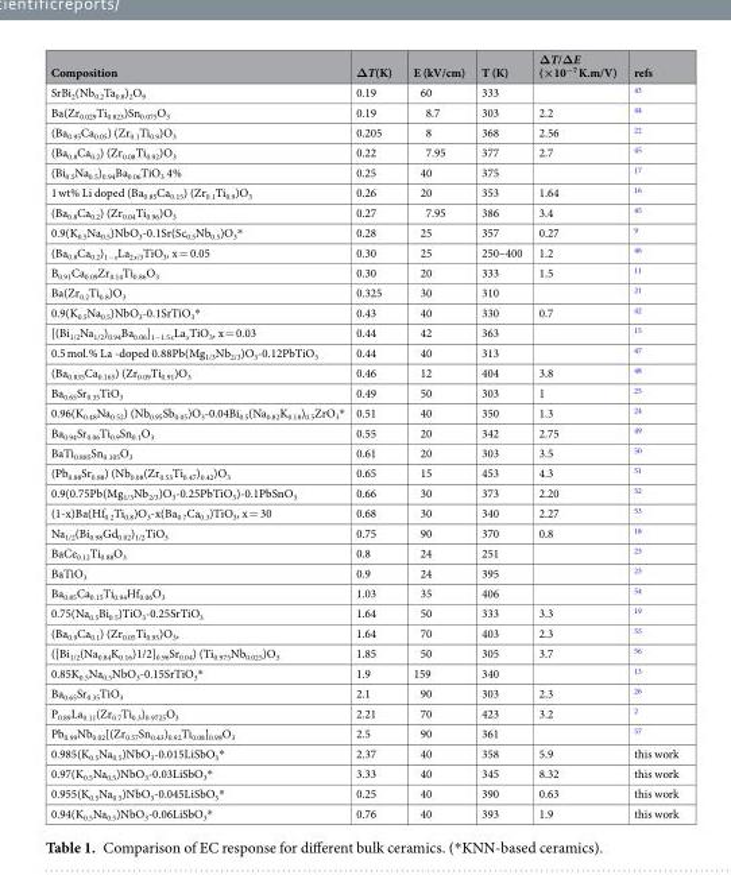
<table><thead><tr><td>Composition</td><td>ΔT(K)</td><td>E (kV/cm)</td><td>T (K)</td><td>ΔT/ΔE (×10<sup>−7</sup> K.m/V)</td><td>refs</td></tr></thead><tbody><tr><td>SrBi<sub>2</sub>(Nb<sub>0.2</sub>Ta<sub>0.8</sub>)<sub>2</sub>O<sub>9</sub></td><td>0.19</td><td>60</td><td>333</td><td></td><td><sup>43</sup></td></tr><tr><td>Ba(Zr<sub>0.029</sub>Ti<sub>0.823</sub>)Sn<sub>0.075</sub>O<sub>3</sub></td><td>0.19</td><td>8.7</td><td>303</td><td>2.2</td><td><sup>44</sup></td></tr><tr><td>(Ba<sub>0.95</sub>Ca<sub>0.05</sub>) (Zr<sub>0.1</sub>Ti<sub>0.9</sub>)O<sub>3</sub></td><td>0.205</td><td>8</td><td>368</td><td>2.56</td><td><sup>22</sup></td></tr><tr><td>(Ba<sub>0.8</sub>Ca<sub>0.2</sub>) (Zr<sub>0.08</sub>Ti<sub>0.92</sub>)O<sub>3</sub></td><td>0.22</td><td>7.95</td><td>377</td><td>2.7</td><td><sup>45</sup></td></tr><tr><td>(Bi<sub>0.5</sub>Na<sub>0.5</sub>)<sub>0.94</sub>Ba<sub>0.06</sub>TiO<sub>3</sub> 4%</td><td>0.25</td><td>40</td><td>375</td><td></td><td><sup>17</sup></td></tr><tr><td>1 wt% Li doped (Ba<sub>0.85</sub>Ca<sub>0.15</sub>) (Zr<sub>0.1</sub>Ti<sub>0.9</sub>)O<sub>3</sub></td><td>0.26</td><td>20</td><td>353</td><td>1.64</td><td><sup>16</sup></td></tr><tr><td>(Ba<sub>0.8</sub>Ca<sub>0.2</sub>) (Zr<sub>0.04</sub>Ti<sub>0.96</sub>)O<sub>3</sub></td><td>0.27</td><td>7.95</td><td>386</td><td>3.4</td><td><sup>45</sup></td></tr><tr><td>0.9(K<sub>0.5</sub>Na<sub>0.5</sub>)NbO<sub>3</sub>-0.1Sr(Sc<sub>0.5</sub>Nb<sub>0.5</sub>)O<sub>3</sub>*</td><td>0.28</td><td>25</td><td>357</td><td>0.27</td><td><sup>9</sup></td></tr><tr><td>(Ba<sub>0.8</sub>Ca<sub>0.2</sub>)<sub>1−x</sub>La<sub>2x/3</sub>TiO<sub>3</sub>, x = 0.05</td><td>0.30</td><td>25</td><td>250–400</td><td>1.2</td><td><sup>46</sup></td></tr><tr><td>B<sub>0.91</sub>Ca<sub>0.09</sub>Zr<sub>0.14</sub>Ti<sub>0.86</sub>O<sub>3</sub></td><td>0.30</td><td>20</td><td>333</td><td>1.5</td><td><sup>11</sup></td></tr><tr><td>Ba(Zr<sub>0.2</sub>Ti<sub>0.8</sub>)O<sub>3</sub></td><td>0.325</td><td>30</td><td>310</td><td></td><td><sup>21</sup></td></tr><tr><td>0.9(K<sub>0.5</sub>Na<sub>0.5</sub>)NbO<sub>3</sub>-0.1SrTiO<sub>3</sub>*</td><td>0.43</td><td>40</td><td>330</td><td>0.7</td><td><sup>42</sup></td></tr><tr><td>[(Bi<sub>1/2</sub>Na<sub>1/2</sub>)<sub>0.94</sub>Ba<sub>0.06</sub>]<sub>1−1.5x</sub>La<sub>x</sub>TiO<sub>3</sub>, x = 0.03</td><td>0.44</td><td>42</td><td>363</td><td></td><td><sup>15</sup></td></tr><tr><td>0.5 mol.% La -doped 0.88Pb(Mg<sub>1/3</sub>Nb<sub>2/3</sub>)O<sub>3</sub>-0.12PbTiO<sub>3</sub></td><td>0.44</td><td>40</td><td>313</td><td></td><td><sup>47</sup></td></tr><tr><td>(Ba<sub>0.835</sub>Ca<sub>0.165</sub>) (Zr<sub>0.09</sub>Ti<sub>0.91</sub>)O<sub>3</sub></td><td>0.46</td><td>12</td><td>404</td><td>3.8</td><td><sup>48</sup></td></tr><tr><td>Ba<sub>0.65</sub>Sr<sub>0.35</sub>TiO<sub>3</sub></td><td>0.49</td><td>50</td><td>303</td><td>1</td><td><sup>25</sup></td></tr><tr><td>0.96(K<sub>0.48</sub>Na<sub>0.52</sub>) (Nb<sub>0.95</sub>Sb<sub>0.05</sub>)O<sub>3</sub>-0.04Bi<sub>0.5</sub>(Na<sub>0.82</sub>K<sub>0.18</sub>)<sub>0.5</sub>ZrO<sub>3</sub>*</td><td>0.51</td><td>40</td><td>350</td><td>1.3</td><td><sup>24</sup></td></tr><tr><td>Ba<sub>0.94</sub>Sr<sub>0.06</sub>Ti<sub>0.9</sub>Sn<sub>0.1</sub>O<sub>3</sub></td><td>0.55</td><td>20</td><td>342</td><td>2.75</td><td><sup>49</sup></td></tr><tr><td>BaTi<sub>0.885</sub>Sn<sub>0.105</sub>O<sub>3</sub></td><td>0.61</td><td>20</td><td>303</td><td>3.5</td><td><sup>50</sup></td></tr><tr><td>(Pb<sub>0.88</sub>Sr<sub>0.88</sub>) (Nb<sub>0.08</sub>(Zr<sub>0.53</sub>Ti<sub>0.47</sub>)<sub>0.42</sub>)O<sub>3</sub></td><td>0.65</td><td>15</td><td>453</td><td>4.3</td><td><sup>51</sup></td></tr><tr><td>0.9(0.75Pb(Mg<sub>1/3</sub>Nb<sub>2/3</sub>)O<sub>3</sub>-0.25PbTiO<sub>3</sub>)-0.1PbSnO<sub>3</sub></td><td>0.66</td><td>30</td><td>373</td><td>2.20</td><td><sup>52</sup></td></tr><tr><td>(1-x)Ba(Hf<sub>0.2</sub>Ti<sub>0.8</sub>)O<sub>3</sub>-x(Ba<sub>0.7</sub>Ca<sub>0.3</sub>)TiO<sub>3</sub>, x = 30</td><td>0.68</td><td>30</td><td>340</td><td>2.27</td><td><sup>53</sup></td></tr><tr><td>Na<sub>1/2</sub>(Bi<sub>0.98</sub>Gd<sub>0.02</sub>)<sub>1/2</sub>TiO<sub>3</sub></td><td>0.75</td><td>90</td><td>370</td><td>0.8</td><td><sup>18</sup></td></tr><tr><td>BaCe<sub>0.12</sub>Ti<sub>0.88</sub>O<sub>3</sub></td><td>0.8</td><td>24</td><td>251</td><td></td><td><sup>23</sup></td></tr><tr><td>BaTiO<sub>3</sub></td><td>0.9</td><td>24</td><td>395</td><td></td><td><sup>23</sup></td></tr><tr><td>Ba<sub>0.85</sub>Ca<sub>0.15</sub>Ti<sub>0.94</sub>Hf<sub>0.06</sub>O<sub>3</sub></td><td>1.03</td><td>35</td><td>406</td><td></td><td><sup>54</sup></td></tr><tr><td>0.75(Na<sub>0.5</sub>Bi<sub>0.5</sub>)TiO<sub>3</sub>-0.25SrTiO<sub>3</sub></td><td>1.64</td><td>50</td><td>333</td><td>3.3</td><td><sup>19</sup></td></tr><tr><td>(Ba<sub>0.9</sub>Ca<sub>0.1</sub>) (Zr<sub>0.05</sub>Ti<sub>0.95</sub>)O<sub>3</sub>,</td><td>1.64</td><td>70</td><td>403</td><td>2.3</td><td><sup>55</sup></td></tr><tr><td>([Bi<sub>1/2</sub>(Na<sub>0.84</sub>K<sub>0.16</sub>)1/2]<sub>0.96</sub>Sr<sub>0.04</sub>) (Ti<sub>0.975</sub>Nb<sub>0.025</sub>)O<sub>3</sub></td><td>1.85</td><td>50</td><td>305</td><td>3.7</td><td><sup>56</sup></td></tr><tr><td>0.85K<sub>0.5</sub>Na<sub>0.5</sub>NbO<sub>3</sub>-0.15SrTiO<sub>3</sub>*</td><td>1.9</td><td>159</td><td>340</td><td></td><td><sup>13</sup></td></tr><tr><td>Ba<sub>0.65</sub>Sr<sub>0.35</sub>TiO<sub>3</sub></td><td>2.1</td><td>90</td><td>303</td><td>2.3</td><td><sup>26</sup></td></tr><tr><td>P<sub>0.89</sub>La<sub>0.11</sub>(Zr<sub>0.7</sub>Ti<sub>0.3</sub>)<sub>0.9725</sub>O<sub>3</sub></td><td>2.21</td><td>70</td><td>423</td><td>3.2</td><td><sup>2</sup></td></tr><tr><td>Pb<sub>0.99</sub>Nb<sub>0.02</sub>[(Zr<sub>0.57</sub>Sn<sub>0.43</sub>)<sub>0.92</sub>Ti<sub>0.08</sub>]<sub>0.98</sub>O<sub>3</sub></td><td>2.5</td><td>90</td><td>361</td><td></td><td><sup>57</sup></td></tr><tr><td>0.985(K<sub>0.5</sub>Na<sub>0.5</sub>)NbO<sub>3</sub>-0.015LiSbO<sub>3</sub>*</td><td>2.37</td><td>40</td><td>358</td><td>5.9</td><td>this work</td></tr><tr><td>0.97(K<sub>0.5</sub>Na<sub>0.5</sub>)NbO<sub>3</sub>-0.03LiSbO<sub>3</sub>*</td><td>3.33</td><td>40</td><td>345</td><td>8.32</td><td>this work</td></tr><tr><td>0.955(K<sub>0.5</sub>Na<sub>0.5</sub>)NbO<sub>3</sub>-0.045LiSbO<sub>3</sub>*</td><td>0.25</td><td>40</td><td>390</td><td>0.63</td><td>this work</td></tr><tr><td>0.94(K<sub>0.5</sub>Na<sub>0.5</sub>)NbO<sub>3</sub>-0.06LiSbO<sub>3</sub>*</td><td>0.76</td><td>40</td><td>393</td><td>1.9</td><td>this work</td></tr></tbody></table>